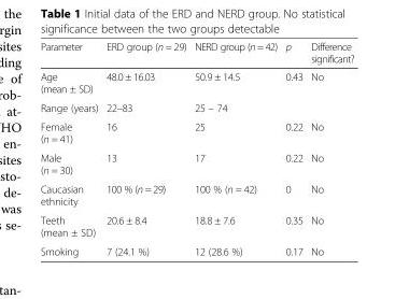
<table><thead><tr><td>Parameter</td><td>ERD group (n = 29)</td><td>NERD group (n = 42)</td><td>p</td><td>Difference significant?</td></tr></thead><tbody><tr><td>Age (mean ± SD)</td><td>48.0 ± 16.03</td><td>50.9 ± 14.5</td><td>0.43</td><td>No</td></tr><tr><td>Range (years)</td><td>22–83</td><td>25 – 74</td><td></td><td></td></tr><tr><td>Female (n = 41)</td><td>16</td><td>25</td><td>0.22</td><td>No</td></tr><tr><td>Male (n = 30)</td><td>13</td><td>17</td><td>0.22</td><td>No</td></tr><tr><td>Caucasian ethnicity</td><td>100 % (n = 29)</td><td>100 % (n = 42)</td><td>0</td><td>No</td></tr><tr><td>Teeth (mean ± SD)</td><td>20.6 ± 8.4</td><td>18.8 ± 7.6</td><td>0.35</td><td>No</td></tr><tr><td>Smoking</td><td>7 (24.1 %)</td><td>12 (28.6 %)</td><td>0.17</td><td>No</td></tr></tbody></table>